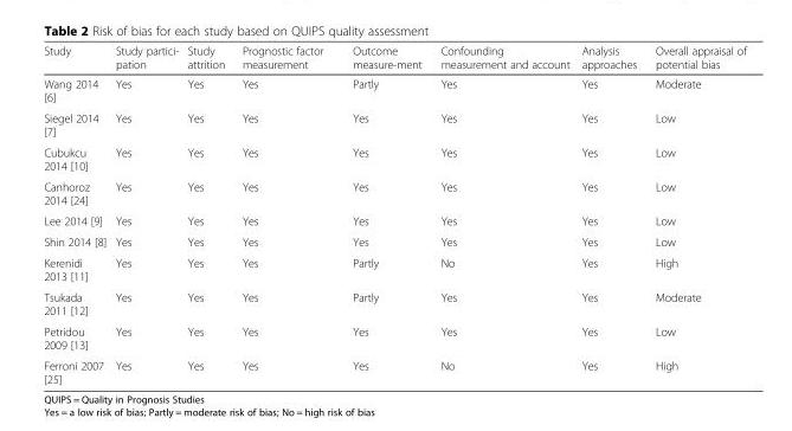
<table><thead><tr><td>Study</td><td>Study partici- pation</td><td>Study attrition</td><td>Prognostic factor measurement</td><td>Outcome measure-ment</td><td>Confounding measurement and account</td><td>Analysis approaches</td><td>Overall appraisal of potential bias</td></tr></thead><tbody><tr><td>Wang 2014 [6]</td><td>Yes</td><td>Yes</td><td>Yes</td><td>Partly</td><td>Yes</td><td>Yes</td><td>Moderate</td></tr><tr><td>Siegel 2014 [7]</td><td>Yes</td><td>Yes</td><td>Yes</td><td>Yes</td><td>Yes</td><td>Yes</td><td>Low</td></tr><tr><td>Cubukcu 2014 [10]</td><td>Yes</td><td>Yes</td><td>Yes</td><td>Yes</td><td>Yes</td><td>Yes</td><td>Low</td></tr><tr><td>Canhoroz 2014 [24]</td><td>Yes</td><td>Yes</td><td>Yes</td><td>Yes</td><td>Yes</td><td>Yes</td><td>Low</td></tr><tr><td>Lee 2014 [9]</td><td>Yes</td><td>Yes</td><td>Yes</td><td>Yes</td><td>Yes</td><td>Yes</td><td>Low</td></tr><tr><td>Shin 2014 [8]</td><td>Yes</td><td>Yes</td><td>Yes</td><td>Yes</td><td>Yes</td><td>Yes</td><td>Low</td></tr><tr><td>Kerenidi 2013 [11]</td><td>Yes</td><td>Yes</td><td>Yes</td><td>Partly</td><td>No</td><td>Yes</td><td>High</td></tr><tr><td>Tsukada 2011 [12]</td><td>Yes</td><td>Yes</td><td>Yes</td><td>Partly</td><td>Yes</td><td>Yes</td><td>Moderate</td></tr><tr><td>Petridou 2009 [13]</td><td>Yes</td><td>Yes</td><td>Yes</td><td>Yes</td><td>Yes</td><td>Yes</td><td>Low</td></tr><tr><td>Ferroni 2007 [25]</td><td>Yes</td><td>Yes</td><td>Yes</td><td>Yes</td><td>No</td><td>Yes</td><td>High</td></tr></tbody></table>